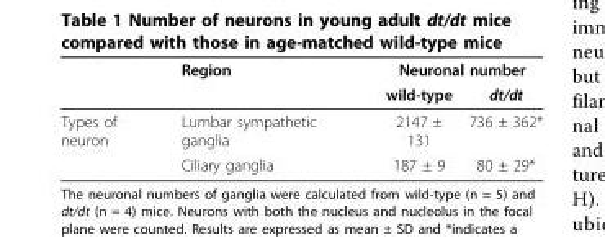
<table><thead><tr><td rowspan="2"></td><td rowspan="2">Region</td><td colspan="2">Neuronal number</td></tr><tr><td>wild-type</td><td>dt/dt</td></tr></thead><tbody><tr><td rowspan="2">Types of neuron</td><td>Lumbar sympathetic ganglia</td><td>2147 ± 131</td><td>736 ± 362*</td></tr><tr><td>Ciliary ganglia</td><td>187 ± 9</td><td>80 ± 29*</td></tr></tbody></table>